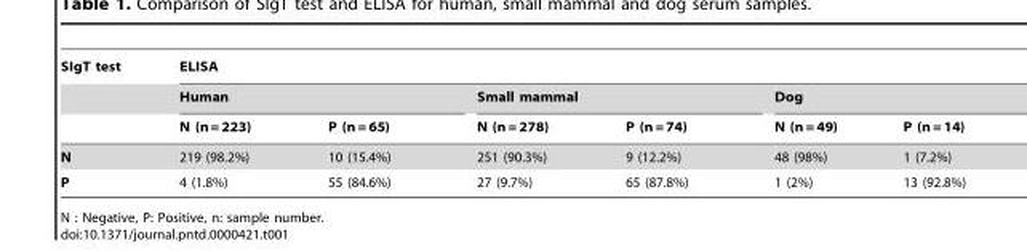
<table><thead><tr><td rowspan="3">SIgT test</td><td colspan="6">ELISA</td></tr><tr><td colspan="2">Human</td><td colspan="2">Small mammal</td><td colspan="2">Dog</td></tr><tr><td>N (n = 223)</td><td>P (n = 65)</td><td>N (n = 278)</td><td>P (n = 74)</td><td>N (n = 49)</td><td>P (n = 14)</td></tr></thead><tbody><tr><td>N</td><td>219 (98.2%)</td><td>10 (15.4%)</td><td>251 (90.3%)</td><td>9 (12.2%)</td><td>48 (98%)</td><td>1 (7.2%)</td></tr><tr><td>P</td><td>4 (1.8%)</td><td>55 (84.6%)</td><td>27 (9.7%)</td><td>65 (87.8%)</td><td>1 (2%)</td><td>13 (92.8%)</td></tr></tbody></table>